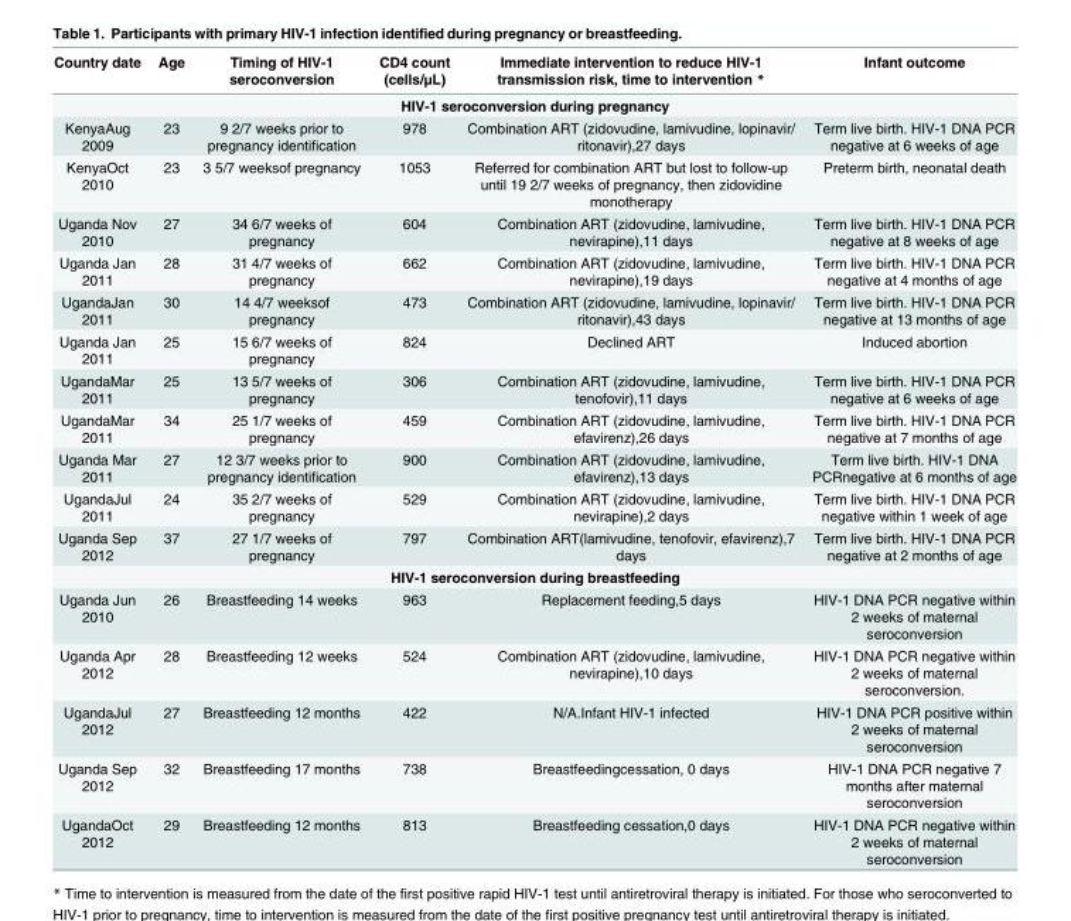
<table><thead><tr><td>Country date</td><td>Age</td><td>Timing of HIV-1 seroconversion</td><td>CD4 count (cells/μL)</td><td>Immediate intervention to reduce HIV-1 transmission risk, time to intervention *</td><td>Infant outcome</td></tr></thead><tbody><tr><td colspan="6">HIV-1 seroconversion during pregnancy</td></tr><tr><td>KenyaAug 2009</td><td>23</td><td>9 2/7 weeks prior to pregnancy identification</td><td>978</td><td>Combination ART (zidovudine, lamivudine, lopinavir/ ritonavir),27 days</td><td>Term live birth. HIV-1 DNA PCR negative at 6 weeks of age</td></tr><tr><td>KenyaOct 2010</td><td>23</td><td>3 5/7 weeksof pregnancy</td><td>1053</td><td>Referred for combination ART but lost to follow-up until 19 2/7 weeks of pregnancy, then zidovidine monotherapy</td><td>Preterm birth, neonatal death</td></tr><tr><td>Uganda Nov 2010</td><td>27</td><td>34 6/7 weeks of pregnancy</td><td>604</td><td>Combination ART (zidovudine, lamivudine, nevirapine),11 days</td><td>Term live birth. HIV-1 DNA PCR negative at 8 weeks of age</td></tr><tr><td>Uganda Jan 2011</td><td>28</td><td>31 4/7 weeks of pregnancy</td><td>662</td><td>Combination ART (zidovudine, lamivudine, nevirapine),19 days</td><td>Term live birth. HIV-1 DNA PCR negative at 4 months of age</td></tr><tr><td>UgandaJan 2011</td><td>30</td><td>14 4/7 weeksof pregnancy</td><td>473</td><td>Combination ART (zidovudine, lamivudine, lopinavir/ ritonavir),43 days</td><td>Term live birth. HIV-1 DNA PCR negative at 13 months of age</td></tr><tr><td>Uganda Jan 2011</td><td>25</td><td>15 6/7 weeks of pregnancy</td><td>824</td><td>Declined ART</td><td>Induced abortion</td></tr><tr><td>UgandaMar 2011</td><td>25</td><td>13 5/7 weeks of pregnancy</td><td>306</td><td>Combination ART (zidovudine, lamivudine, tenofovir),11 days</td><td>Term live birth. HIV-1 DNA PCR negative at 6 weeks of age</td></tr><tr><td>UgandaMar 2011</td><td>34</td><td>25 1/7 weeks of pregnancy</td><td>459</td><td>Combination ART (zidovudine, lamivudine, efavirenz),26 days</td><td>Term live birth. HIV-1 DNA PCR negative at 7 months of age</td></tr><tr><td>Uganda Mar 2011</td><td>27</td><td>12 3/7 weeks prior to pregnancy identification</td><td>900</td><td>Combination ART (zidovudine, lamivudine, efavirenz),13 days</td><td>Term live birth. HIV-1 DNA PCRnegative at 6 months of age</td></tr><tr><td>UgandaJul 2011</td><td>24</td><td>35 2/7 weeks of pregnancy</td><td>529</td><td>Combination ART (zidovudine, lamivudine, nevirapine),2 days</td><td>Term live birth. HIV-1 DNA PCR negative within 1 week of age</td></tr><tr><td>Uganda Sep 2012</td><td>37</td><td>27 1/7 weeks of pregnancy</td><td>797</td><td>Combination ART(lamivudine, tenofovir, efavirenz),7 days</td><td>Term live birth. HIV-1 DNA PCR negative at 2 months of age</td></tr><tr><td colspan="6">HIV-1 seroconversion during breastfeeding</td></tr><tr><td>Uganda Jun 2010</td><td>26</td><td>Breastfeeding 14 weeks</td><td>963</td><td>Replacement feeding,5 days</td><td>HIV-1 DNA PCR negative within 2 weeks of maternal seroconversion</td></tr><tr><td>Uganda Apr 2012</td><td>28</td><td>Breastfeeding 12 weeks</td><td>524</td><td>Combination ART (zidovudine, lamivudine, nevirapine),10 days</td><td>HIV-1 DNA PCR negative within 2 weeks of maternal seroconversion.</td></tr><tr><td>UgandaJul 2012</td><td>27</td><td>Breastfeeding 12 months</td><td>422</td><td>N/A.Infant HIV-1 infected</td><td>HIV-1 DNA PCR positive within 2 weeks of maternal seroconversion</td></tr><tr><td>Uganda Sep 2012</td><td>32</td><td>Breastfeeding 17 months</td><td>738</td><td>Breastfeedingcessation, 0 days</td><td>HIV-1 DNA PCR negative 7 months after maternal seroconversion</td></tr><tr><td>UgandaOct 2012</td><td>29</td><td>Breastfeeding 12 months</td><td>813</td><td>Breastfeeding cessation,0 days</td><td>HIV-1 DNA PCR negative within 2 weeks of maternal seroconversion</td></tr></tbody></table>